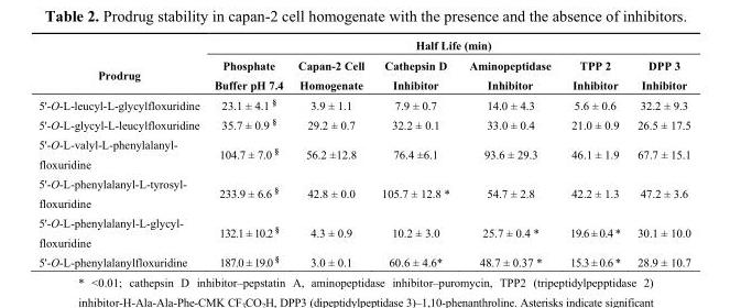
<table><thead><tr><td rowspan="2">Prodrug</td><td colspan="6">Half Life (min)</td></tr><tr><td>Phosphate Buffer pH 7.4</td><td>Capan-2 Cell Homogenate</td><td>Cathepsin D Inhibitor</td><td>Aminopeptidase Inhibitor</td><td>TPP 2 Inhibitor</td><td>DPP 3 Inhibitor</td></tr></thead><tbody><tr><td>5&#x27;-O-L-leucyl-L-glycylfloxuridine</td><td>23.1 ± 4.1 <sup>§</sup></td><td>3.9 ± 1.1</td><td>7.9 ± 0.7</td><td>14.0 ± 4.3</td><td>5.6 ± 0.6</td><td>32.2 ± 9.3</td></tr><tr><td>5&#x27;-O-L-glycyl-L-leucylfloxuridine</td><td>35.7 ± 0.9 <sup>§</sup></td><td>29.2 ± 0.7</td><td>32.2 ± 0.1</td><td>33.0 ± 0.4</td><td>21.0 ± 0.9</td><td>26.5 ± 17.5</td></tr><tr><td>5&#x27;-O-L-valyl-L-phenylalanyl- floxuridine</td><td>104.7 ± 7.0 <sup>§</sup></td><td>56.2 ±12.8</td><td>76.4 ±6.1</td><td>93.6 ± 29.3</td><td>46.1 ± 1.9</td><td>67.7 ± 15.1</td></tr><tr><td>5&#x27;-O-L-phenylalanyl-L-tyrosyl- floxuridine</td><td>233.9 ± 6.6 <sup>§</sup></td><td>42.8 ± 0.0</td><td>105.7 ± 12.8 *</td><td>54.7 ± 2.8</td><td>42.2 ± 1.3</td><td>47.2 ± 3.6</td></tr><tr><td>5&#x27;-O-L-phenylalanyl-L-glycyl- floxuridine</td><td>132.1 ± 10.2 <sup>§</sup></td><td>4.3 ± 0.9</td><td>10.2 ± 3.0</td><td>25.7 ± 0.4 *</td><td>19.6 ± 0.4 *</td><td>30.1 ± 10.0</td></tr><tr><td>5&#x27;-O-L-phenylalanylfloxuridine</td><td>187.0 ± 19.0 <sup>§</sup></td><td>3.0 ± 0.1</td><td>60.6 ± 4.6*</td><td>48.7 ± 0.37 *</td><td>15.3 ± 0.6 *</td><td>28.9 ± 10.7</td></tr></tbody></table>